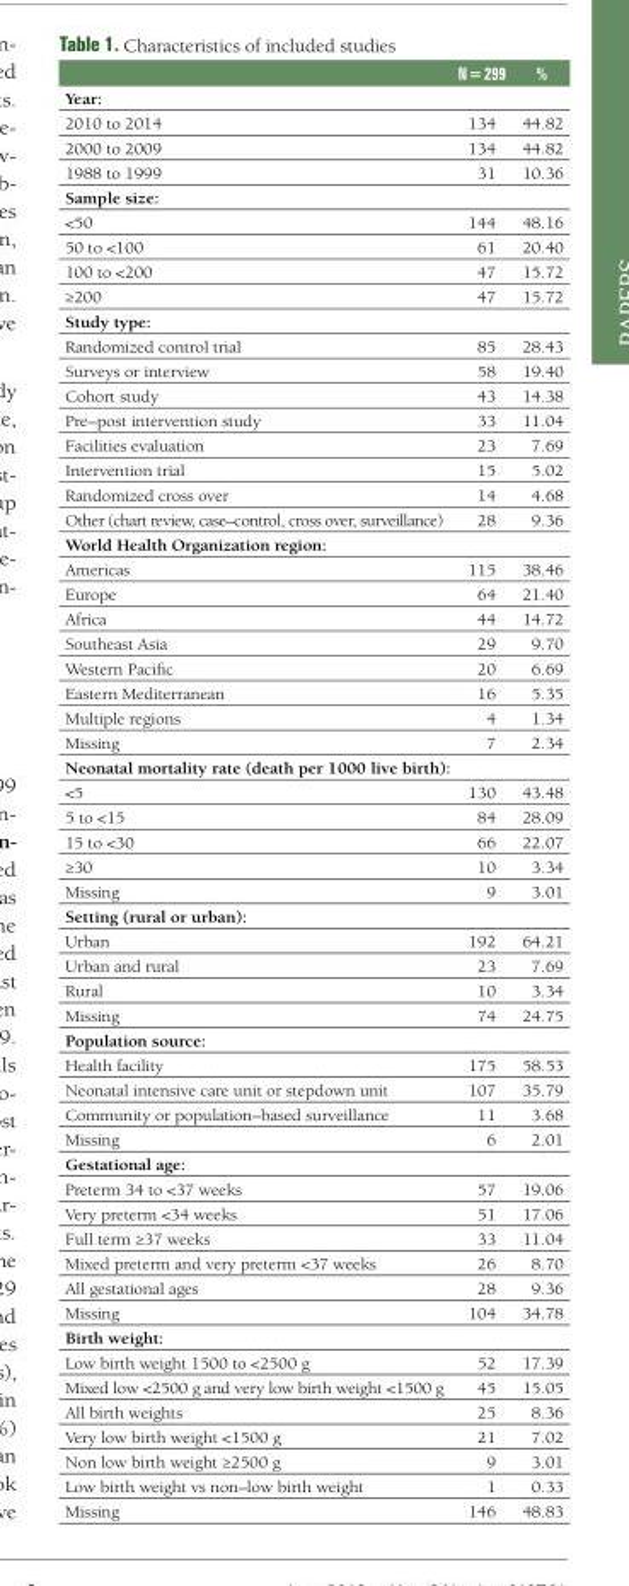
<table><thead><tr><td></td><td>N = 299</td><td>%</td></tr></thead><tbody><tr><td colspan="3">Year:</td></tr><tr><td>2010 to 2014</td><td>134</td><td>44.82</td></tr><tr><td>2000 to 2009</td><td>134</td><td>44.82</td></tr><tr><td>1988 to 1999</td><td>31</td><td>10.36</td></tr><tr><td colspan="3">Sample size:</td></tr><tr><td>&lt;50</td><td>144</td><td>48.16</td></tr><tr><td>50 to &lt;100</td><td>61</td><td>20.40</td></tr><tr><td>100 to &lt;200</td><td>47</td><td>15.72</td></tr><tr><td>≥200</td><td>47</td><td>15.72</td></tr><tr><td colspan="3">Study type:</td></tr><tr><td>Randomized control trial</td><td>85</td><td>28.43</td></tr><tr><td>Surveys or interview</td><td>58</td><td>19.40</td></tr><tr><td>Cohort study</td><td>43</td><td>14.38</td></tr><tr><td>Pre–post intervention study</td><td>33</td><td>11.04</td></tr><tr><td>Facilities evaluation</td><td>23</td><td>7.69</td></tr><tr><td>Intervention trial</td><td>15</td><td>5.02</td></tr><tr><td>Randomized cross over</td><td>14</td><td>4.68</td></tr><tr><td>Other (chart review, case–control, cross over, surveillance)</td><td>28</td><td>9.36</td></tr><tr><td colspan="3">World Health Organization region:</td></tr><tr><td>Americas</td><td>115</td><td>38.46</td></tr><tr><td>Europe</td><td>64</td><td>21.40</td></tr><tr><td>Africa</td><td>44</td><td>14.72</td></tr><tr><td>Southeast Asia</td><td>29</td><td>9.70</td></tr><tr><td>Western Pacific</td><td>20</td><td>6.69</td></tr><tr><td>Eastern Mediterranean</td><td>16</td><td>5.35</td></tr><tr><td>Multiple regions</td><td>4</td><td>1.34</td></tr><tr><td>Missing</td><td>7</td><td>2.34</td></tr><tr><td colspan="3">Neonatal mortality rate (death per 1000 live birth):</td></tr><tr><td>&lt;5</td><td>130</td><td>43.48</td></tr><tr><td>5 to &lt;15</td><td>84</td><td>28.09</td></tr><tr><td>15 to &lt;30</td><td>66</td><td>22.07</td></tr><tr><td>≥30</td><td>10</td><td>3.34</td></tr><tr><td>Missing</td><td>9</td><td>3.01</td></tr><tr><td colspan="3">Setting (rural or urban):</td></tr><tr><td>Urban</td><td>192</td><td>64.21</td></tr><tr><td>Urban and rural</td><td>23</td><td>7.69</td></tr><tr><td>Rural</td><td>10</td><td>3.34</td></tr><tr><td>Missing</td><td>74</td><td>24.75</td></tr><tr><td colspan="3">Population source:</td></tr><tr><td>Health facility</td><td>175</td><td>58.53</td></tr><tr><td>Neonatal intensive care unit or stepdown unit</td><td>107</td><td>35.79</td></tr><tr><td>Community or population–based surveillance</td><td>11</td><td>3.68</td></tr><tr><td>Missing</td><td>6</td><td>2.01</td></tr><tr><td colspan="3">Gestational age:</td></tr><tr><td>Preterm 34 to &lt;37 weeks</td><td>57</td><td>19.06</td></tr><tr><td>Very preterm &lt;34 weeks</td><td>51</td><td>17.06</td></tr><tr><td>Full term ≥37 weeks</td><td>33</td><td>11.04</td></tr><tr><td>Mixed preterm and very preterm &lt;37 weeks</td><td>26</td><td>8.70</td></tr><tr><td>All gestational ages</td><td>28</td><td>9.36</td></tr><tr><td>Missing</td><td>104</td><td>34.78</td></tr><tr><td colspan="3">Birth weight:</td></tr><tr><td>Low birth weight 1500 to &lt;2500 g</td><td>52</td><td>17.39</td></tr><tr><td>Mixed low &lt;2500 g and very low birth weight &lt;1500 g</td><td>45</td><td>15.05</td></tr><tr><td>All birth weights</td><td>25</td><td>8.36</td></tr><tr><td>Very low birth weight &lt;1500 g</td><td>21</td><td>7.02</td></tr><tr><td>Non low birth weight ≥2500 g</td><td>9</td><td>3.01</td></tr><tr><td>Low birth weight vs non–low birth weight</td><td>1</td><td>0.33</td></tr><tr><td>Missing</td><td>146</td><td>48.83</td></tr></tbody></table>